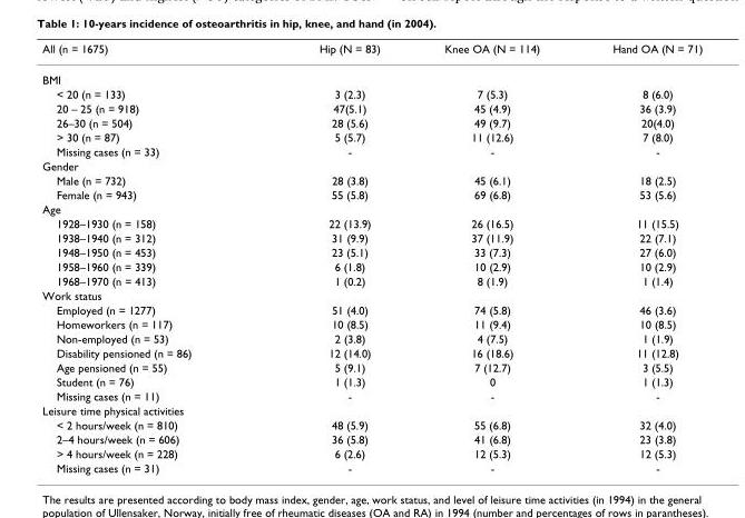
<table><thead><tr><td>All (n = 1675)</td><td>Hip (N = 83)</td><td>Knee OA (N = 114)</td><td>Hand OA (N = 71)</td></tr></thead><tbody><tr><td colspan="4">BMI</td></tr><tr><td>&lt; 20 (n = 133)</td><td>3 (2.3)</td><td>7 (5.3)</td><td>8 (6.0)</td></tr><tr><td>20 – 25 (n = 918)</td><td>47(5.1)</td><td>45 (4.9)</td><td>36 (3.9)</td></tr><tr><td>26–30 (n = 504)</td><td>28 (5.6)</td><td>49 (9.7)</td><td>20(4.0)</td></tr><tr><td>&gt; 30 (n = 87)</td><td>5 (5.7)</td><td>11 (12.6)</td><td>7 (8.0)</td></tr><tr><td>Missing cases (n = 33)</td><td>-</td><td>-</td><td>-</td></tr><tr><td colspan="4">Gender</td></tr><tr><td>Male (n = 732)</td><td>28 (3.8)</td><td>45 (6.1)</td><td>18 (2.5)</td></tr><tr><td>Female (n = 943)</td><td>55 (5.8)</td><td>69 (6.8)</td><td>53 (5.6)</td></tr><tr><td colspan="4">Age</td></tr><tr><td>1928–1930 (n = 158)</td><td>22 (13.9)</td><td>26 (16.5)</td><td>11 (15.5)</td></tr><tr><td>1938–1940 (n = 312)</td><td>31 (9.9)</td><td>37 (11.9)</td><td>22 (7.1)</td></tr><tr><td>1948–1950 (n = 453)</td><td>23 (5.1)</td><td>33 (7.3)</td><td>27 (6.0)</td></tr><tr><td>1958–1960 (n = 339)</td><td>6 (1.8)</td><td>10 (2.9)</td><td>10 (2.9)</td></tr><tr><td>1968–1970 (n = 413)</td><td>1 (0.2)</td><td>8 (1.9)</td><td>1 (1.4)</td></tr><tr><td colspan="4">Work status</td></tr><tr><td>Employed (n = 1277)</td><td>51 (4.0)</td><td>74 (5.8)</td><td>46 (3.6)</td></tr><tr><td>Homeworkers (n = 117)</td><td>10 (8.5)</td><td>11 (9.4)</td><td>10 (8.5)</td></tr><tr><td>Non-employed (n = 53)</td><td>2 (3.8)</td><td>4 (7.5)</td><td>1 (1.9)</td></tr><tr><td>Disability pensioned (n = 86)</td><td>12 (14.0)</td><td>16 (18.6)</td><td>11 (12.8)</td></tr><tr><td>Age pensioned (n = 55)</td><td>5 (9.1)</td><td>7 (12.7)</td><td>3 (5.5)</td></tr><tr><td>Student (n = 76)</td><td>1 (1.3)</td><td>0</td><td>1 (1.3)</td></tr><tr><td>Missing cases (n = 11)</td><td>-</td><td>-</td><td>-</td></tr><tr><td colspan="4">Leisure time physical activities</td></tr><tr><td>&lt; 2 hours/week (n = 810)</td><td>48 (5.9)</td><td>55 (6.8)</td><td>32 (4.0)</td></tr><tr><td>2–4 hours/week (n = 606)</td><td>36 (5.8)</td><td>41 (6.8)</td><td>23 (3.8)</td></tr><tr><td>&gt; 4 hours/week (n = 228)</td><td>6 (2.6)</td><td>12 (5.3)</td><td>12 (5.3)</td></tr><tr><td>Missing cases (n = 31)</td><td>-</td><td>-</td><td>-</td></tr></tbody></table>